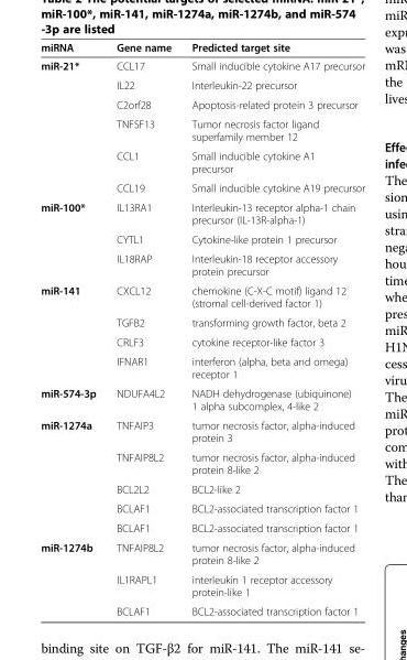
<table><thead><tr><td>miRNA</td><td>Gene name</td><td>Predicted target site</td></tr></thead><tbody><tr><td rowspan="6">miR-21*</td><td>CCL17</td><td>Small inducible cytokine A17 precursor</td></tr><tr><td>IL22</td><td>Interleukin-22 precursor</td></tr><tr><td>C2orf28</td><td>Apoptosis-related protein 3 precursor</td></tr><tr><td>TNFSF13</td><td>Tumor necrosis factor ligand superfamily member 12</td></tr><tr><td>CCL1</td><td>Small inducible cytokine A1 precursor</td></tr><tr><td>CCL19</td><td>Small inducible cytokine A19 precursor</td></tr><tr><td rowspan="3">miR-100*</td><td>IL13RA1</td><td>Interleukin-13 receptor alpha-1 chain precursor (IL-13R-alpha-1)</td></tr><tr><td>CYTL1</td><td>Cytokine-like protein 1 precursor</td></tr><tr><td>IL18RAP</td><td>Interleukin-18 receptor accessory protein precursor</td></tr><tr><td rowspan="4">miR-141</td><td>CXCL12</td><td>chemokine (C-X-C motif) ligand 12 (stromal cell-derived factor 1)</td></tr><tr><td>TGFB2</td><td>transforming growth factor, beta 2</td></tr><tr><td>CRLF3</td><td>cytokine receptor-like factor 3</td></tr><tr><td>IFNAR1</td><td>interferon (alpha, beta and omega) receptor 1</td></tr><tr><td>miR-574-3p</td><td>NDUFA4L2</td><td>NADH dehydrogenase (ubiquinone) 1 alpha subcomplex, 4-like 2</td></tr><tr><td rowspan="5">miR-1274a</td><td>TNFAIP3</td><td>tumor necrosis factor, alpha-induced protein 3</td></tr><tr><td>TNFAIP8L2</td><td>tumor necrosis factor, alpha-induced protein 8-like 2</td></tr><tr><td>BCL2L2</td><td>BCL2-like 2</td></tr><tr><td>BCLAF1</td><td>BCL2-associated transcription factor 1</td></tr><tr><td>BCLAF1</td><td>BCL2-associated transcription factor 1</td></tr><tr><td rowspan="3">miR-1274b</td><td>TNFAIP8L2</td><td>tumor necrosis factor, alpha-induced protein 8-like 2</td></tr><tr><td>IL1RAPL1</td><td>interleukin 1 receptor accessory protein-like 1</td></tr><tr><td>BCLAF1</td><td>BCL2-associated transcription factor 1</td></tr></tbody></table>